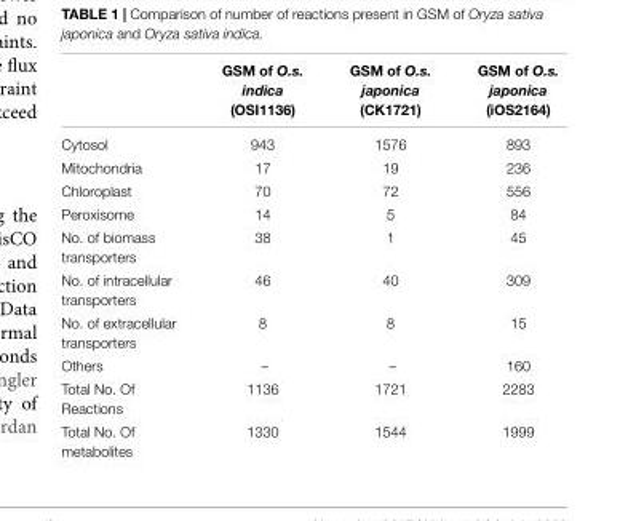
<table><thead><tr><td></td><td>GSM of O.s. indica (OSI1136)</td><td>GSM of O.s. japonica (CK1721)</td><td>GSM of O.s. japonica (iOS2164)</td></tr></thead><tbody><tr><td>Cytosol</td><td>943</td><td>1576</td><td>893</td></tr><tr><td>Mitochondria</td><td>17</td><td>19</td><td>236</td></tr><tr><td>Chloroplast</td><td>70</td><td>72</td><td>556</td></tr><tr><td>Peroxisome</td><td>14</td><td>5</td><td>84</td></tr><tr><td>No. of biomass transporters</td><td>38</td><td>1</td><td>45</td></tr><tr><td>No. of intracellular transporters</td><td>46</td><td>40</td><td>309</td></tr><tr><td>No. of extracellular transporters</td><td>8</td><td>8</td><td>15</td></tr><tr><td>Others</td><td>–</td><td>–</td><td>160</td></tr><tr><td>Total No. Of Reactions</td><td>1136</td><td>1721</td><td>2283</td></tr><tr><td>Total No. Of metabolites</td><td>1330</td><td>1544</td><td>1999</td></tr></tbody></table>